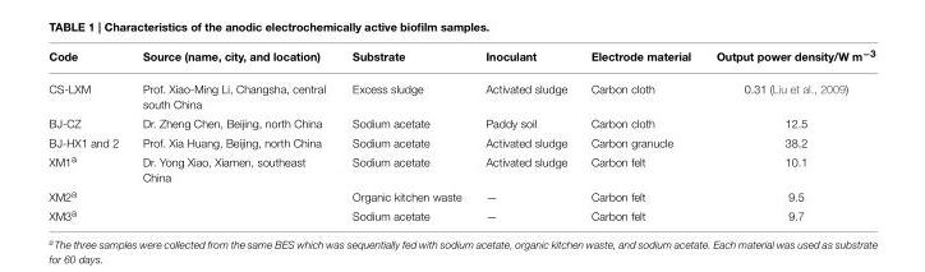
<table><thead><tr><td>Code</td><td>Source (name, city, and location)</td><td>Substrate</td><td>Inoculant</td><td>Electrode material</td><td>Output power density/W m<sup>−3</sup></td></tr></thead><tbody><tr><td>CS-LXM</td><td>Prof. Xiao-Ming Li, Changsha, central south China</td><td>Excess sludge</td><td>Activated sludge</td><td>Carbon cloth</td><td>0.31 (Liu et al., 2009)</td></tr><tr><td>BJ-CZ</td><td>Dr. Zheng Chen, Beijing, north China</td><td>Sodium acetate</td><td>Paddy soil</td><td>Carbon cloth</td><td>12.5</td></tr><tr><td>BJ-HX1 and 2</td><td>Prof. Xia Huang, Beijing, north China</td><td>Sodium acetate</td><td>Activated sludge</td><td>Carbon granucle</td><td>38.2</td></tr><tr><td>XM1<sup>a</sup></td><td>Dr. Yong Xiao, Xiamen, southeast China</td><td>Sodium acetate</td><td>Activated sludge</td><td>Carbon felt</td><td>10.1</td></tr><tr><td>XM2<sup>a</sup></td><td></td><td>Organic kitchen waste</td><td>—</td><td>Carbon felt</td><td>9.5</td></tr><tr><td>XM3<sup>a</sup></td><td></td><td>Sodium acetate</td><td>—</td><td>Carbon felt</td><td>9.7</td></tr></tbody></table>